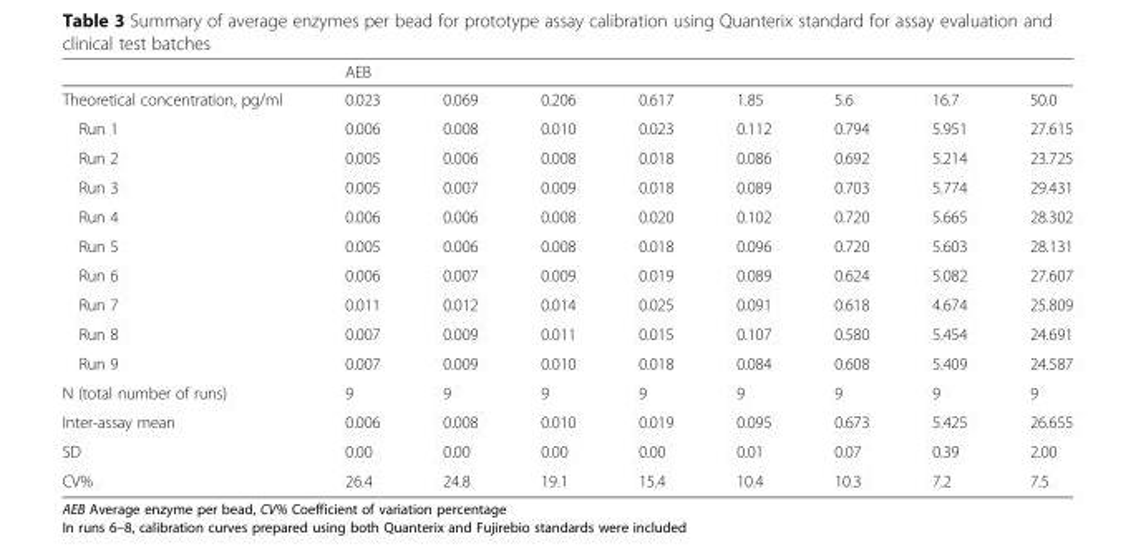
<table><thead><tr><td rowspan="2">Theoretical concentration, pg/ml</td><td colspan="8">AEB</td></tr><tr><td>0.023</td><td>0.069</td><td>0.206</td><td>0.617</td><td>1.85</td><td>5.6</td><td>16.7</td><td>50.0</td></tr></thead><tbody><tr><td>Run 1</td><td>0.006</td><td>0.008</td><td>0.010</td><td>0.023</td><td>0.112</td><td>0.794</td><td>5.951</td><td>27.615</td></tr><tr><td>Run 2</td><td>0.005</td><td>0.006</td><td>0.008</td><td>0.018</td><td>0.086</td><td>0.692</td><td>5.214</td><td>23.725</td></tr><tr><td>Run 3</td><td>0.005</td><td>0.007</td><td>0.009</td><td>0.018</td><td>0.089</td><td>0.703</td><td>5.774</td><td>29.431</td></tr><tr><td>Run 4</td><td>0.006</td><td>0.006</td><td>0.008</td><td>0.020</td><td>0.102</td><td>0.720</td><td>5.665</td><td>28.302</td></tr><tr><td>Run 5</td><td>0.005</td><td>0.006</td><td>0.008</td><td>0.018</td><td>0.096</td><td>0.720</td><td>5.603</td><td>28.131</td></tr><tr><td>Run 6</td><td>0.006</td><td>0.007</td><td>0.009</td><td>0.019</td><td>0.089</td><td>0.624</td><td>5.082</td><td>27.607</td></tr><tr><td>Run 7</td><td>0.011</td><td>0.012</td><td>0.014</td><td>0.025</td><td>0.091</td><td>0.618</td><td>4.674</td><td>25.809</td></tr><tr><td>Run 8</td><td>0.007</td><td>0.009</td><td>0.011</td><td>0.015</td><td>0.107</td><td>0.580</td><td>5.454</td><td>24.691</td></tr><tr><td>Run 9</td><td>0.007</td><td>0.009</td><td>0.010</td><td>0.018</td><td>0.084</td><td>0.608</td><td>5.409</td><td>24.587</td></tr><tr><td>N (total number of runs)</td><td>9</td><td>9</td><td>9</td><td>9</td><td>9</td><td>9</td><td>9</td><td>9</td></tr><tr><td>Inter-assay mean</td><td>0.006</td><td>0.008</td><td>0.010</td><td>0.019</td><td>0.095</td><td>0.673</td><td>5.425</td><td>26.655</td></tr><tr><td>SD</td><td>0.00</td><td>0.00</td><td>0.00</td><td>0.00</td><td>0.01</td><td>0.07</td><td>0.39</td><td>2.00</td></tr><tr><td>CV%</td><td>26.4</td><td>24.8</td><td>19.1</td><td>15.4</td><td>10.4</td><td>10.3</td><td>7.2</td><td>7.5</td></tr></tbody></table>